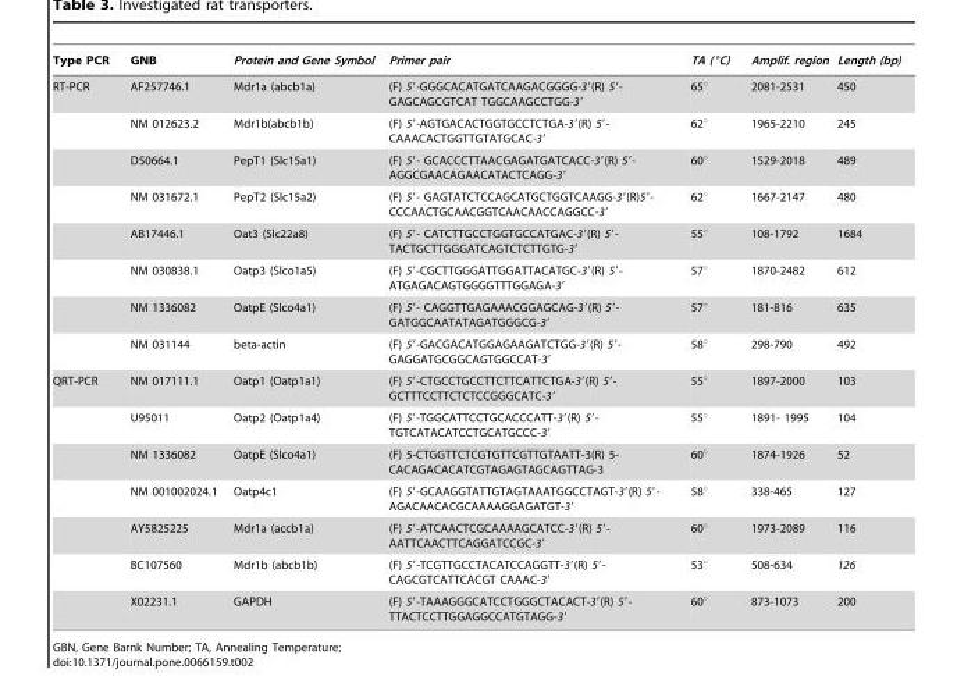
<table><thead><tr><td>Type PCR</td><td>GNB</td><td>Protein and Gene Symbol</td><td>Primer pair</td><td>TA (°C)</td><td>Amplif. region</td><td>Length (bp)</td></tr></thead><tbody><tr><td rowspan="8">RT-PCR</td><td>AF257746.1</td><td>Mdr1a (abcb1a)</td><td>(F) 5′-GGGCACATGATCAAGACGGGG-3′(R) 5′- GAGCAGCGTCAT TGGCAAGCCTGG-3′</td><td>65°</td><td>2081-2531</td><td>450</td></tr><tr><td>NM 012623.2</td><td>Mdr1b(abcb1b)</td><td>(F) 5′-AGTGACACTGGTGCCTCTGA-3′(R) 5′- CAAACACTGGTTGTATGCAC-3′</td><td>62°</td><td>1965-2210</td><td>245</td></tr><tr><td>D50664.1</td><td>PepT1 (Slc15a1)</td><td>(F) 5′- GCACCCTTAACGAGATGATCACC-3′(R) 5′- AGGCGAACAGAACATACTCAGG-3′</td><td>60°</td><td>1529-2018</td><td>489</td></tr><tr><td>NM 031672.1</td><td>PepT2 (Slc15a2)</td><td>(F) 5′- GAGTATCTCCAGCATGCTGGTCAAGG-3′(R)5′- CCCAACTGCAACGGTCAACAACCAGGCC-3′</td><td>62°</td><td>1667-2147</td><td>480</td></tr><tr><td>AB17446.1</td><td>Oat3 (Slc22a8)</td><td>(F) 5′- CATCTTGCCTGGTGCCATGAC-3′(R) 5′- TACTGCTTGGGATCAGTCTCTTGTG-3′</td><td>55°</td><td>108-1792</td><td>1684</td></tr><tr><td>NM 030838.1</td><td>Oatp3 (Slco1a5)</td><td>(F) 5′-CGCTTGGGATTGGATTACATGC-3′(R) 5′- ATGAGACAGTGGGGTTTGGAGA-3′</td><td>57°</td><td>1870-2482</td><td>612</td></tr><tr><td>NM 1336082</td><td>OatpE (Slco4a1)</td><td>(F) 5′- CAGGTTGAGAAACGGAGCAG-3′(R) 5′- GATGGCAATATAGATGGGCG-3′</td><td>57°</td><td>181-816</td><td>635</td></tr><tr><td>NM 031144</td><td>beta-actin</td><td>(F) 5′-GACGACATGGAGAAGATCTGG-3′(R) 5′- GAGGATGCGGCAGTGGCCAT-3′</td><td>58°</td><td>298-790</td><td>492</td></tr><tr><td rowspan="7">QRT-PCR</td><td>NM 017111.1</td><td>Oatp1 (Oatp1a1)</td><td>(F) 5′-CTGCCTGCCTTCTTCATTCTGA-3′(R) 5′- GCTTTCCTTCTCTCCGGGCATC-3′</td><td>55°</td><td>1897-2000</td><td>103</td></tr><tr><td>U95011</td><td>Oatp2 (Oatp1a4)</td><td>(F) 5′-TGGCATTCCTGCACCCATT-3′(R) 5′- TGTCATACATCCTGCATGCCC-3′</td><td>55°</td><td>1891- 1995</td><td>104</td></tr><tr><td>NM 1336082</td><td>OatpE (Slco4a1)</td><td>(F) 5-CTGGTTCTCGTGTTCGTTGTAATT-3(R) 5- CACAGACACATCGTAGAGTAGCAGTTAG-3</td><td>60°</td><td>1874-1926</td><td>52</td></tr><tr><td>NM 001002024.1</td><td>Oatp4c1</td><td>(F) 5′-GCAAGGTATTGTAGTAAATGGCCTAGT-3′(R) 5′- AGACAACACGCAAAAGGAGATGT-3′</td><td>58°</td><td>338-465</td><td>127</td></tr><tr><td>AY5825225</td><td>Mdr1a (accb1a)</td><td>(F) 5′-ATCAACTCGCAAAAGCATCC-3′(R) 5′- AATTCAACTTCAGGATCCGC-3′</td><td>60°</td><td>1973-2089</td><td>116</td></tr><tr><td>BC107560</td><td>Mdr1b (abcb1b)</td><td>(F) 5′-TCGTTGCCTACATCCAGGTT-3′(R) 5′- CAGCGTCATTCACGT CAAAC-3′</td><td>53°</td><td>508-634</td><td>126</td></tr><tr><td>X02231.1</td><td>GAPDH</td><td>(F) 5′-TAAAGGGCATCCTGGGCTACACT-3′(R) 5′- TTACTCCTTGGAGGCCATGTAGG-3′</td><td>60°</td><td>873-1073</td><td>200</td></tr></tbody></table>